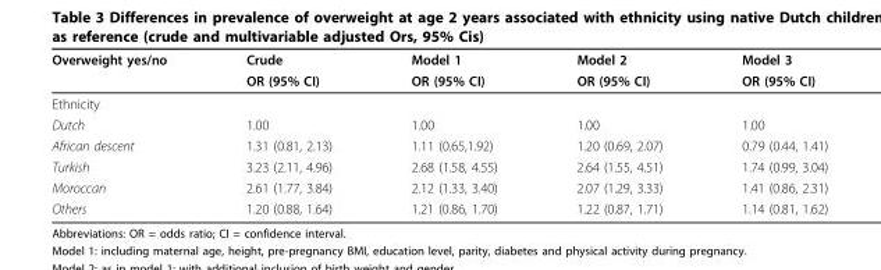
<table><thead><tr><td rowspan="2">Overweight yes/no</td><td rowspan="2">Crude OR (95% CI)</td><td rowspan="2">Model 1 OR (95% CI)</td><td rowspan="2">Model 2 OR (95% CI)</td><td rowspan="2">Model 3 OR (95% CI)</td></tr><tr></tr></thead><tbody><tr><td colspan="5">Ethnicity</td></tr><tr><td>Dutch</td><td>1.00</td><td>1.00</td><td>1.00</td><td>1.00</td></tr><tr><td>African descent</td><td>1.31 (0.81, 2.13)</td><td>1.11 (0.65,1.92)</td><td>1.20 (0.69, 2.07)</td><td>0.79 (0.44, 1.41)</td></tr><tr><td>Turkish</td><td>3.23 (2.11, 4.96)</td><td>2.68 (1.58, 4.55)</td><td>2.64 (1.55, 4.51)</td><td>1.74 (0.99, 3.04)</td></tr><tr><td>Moroccan</td><td>2.61 (1.77, 3.84)</td><td>2.12 (1.33, 3.40)</td><td>2.07 (1.29, 3.33)</td><td>1.41 (0.86, 2.31)</td></tr><tr><td>Others</td><td>1.20 (0.88, 1.64)</td><td>1.21 (0.86, 1.70)</td><td>1.22 (0.87, 1.71)</td><td>1.14 (0.81, 1.62)</td></tr></tbody></table>